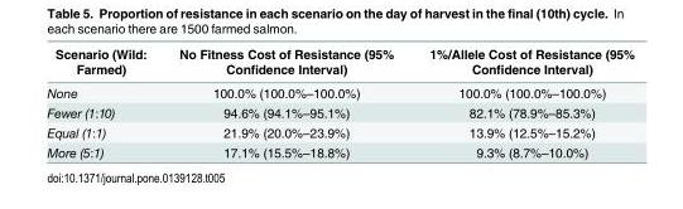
<table><thead><tr><td>Scenario (Wild: Farmed)</td><td>No Fitness Cost of Resistance (95% Confidence Interval)</td><td>1%/Allele Cost of Resistance (95% Confidence Interval)</td></tr></thead><tbody><tr><td>None</td><td>100.0% (100.0%–100.0%)</td><td>100.0% (100.0%–100.0%)</td></tr><tr><td>Fewer (1:10)</td><td>94.6% (94.1%–95.1%)</td><td>82.1% (78.9%–85.3%)</td></tr><tr><td>Equal (1:1)</td><td>21.9% (20.0%–23.9%)</td><td>13.9% (12.5%–15.2%)</td></tr><tr><td>More (5:1)</td><td>17.1% (15.5%–18.8%)</td><td>9.3% (8.7%–10.0%)</td></tr></tbody></table>